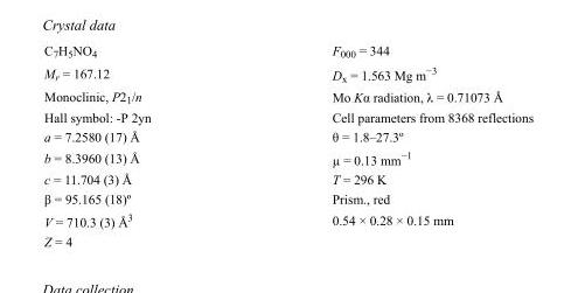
<table><tbody><tr><td>C<sub>7</sub>H<sub>5</sub>NO<sub>4</sub></td><td>F000 = 344</td></tr><tr><td>M<sub>r</sub> = 167.12</td><td>D<sub>x</sub> = 1.563 Mg m<sup>−3</sup></td></tr><tr><td>Monoclinic, P2<sub>1</sub>/n</td><td>Mo Kα radiation, λ = 0.71073 Å</td></tr><tr><td>Hall symbol: -P 2yn</td><td>Cell parameters from 8368 reflections</td></tr><tr><td>a = 7.2580 (17) Å</td><td>θ = 1.8–27.3º</td></tr><tr><td>b = 8.3960 (13) Å</td><td>µ = 0.13 mm<sup>−1</sup></td></tr><tr><td>c = 11.704 (3) Å</td><td>T = 296 K</td></tr><tr><td>β = 95.165 (18)º</td><td>Prism., red</td></tr><tr><td>V = 710.3 (3) Å<sup>3</sup></td><td>0.54 × 0.28 × 0.15 mm</td></tr><tr><td>Z = 4</td><td></td></tr></tbody></table>